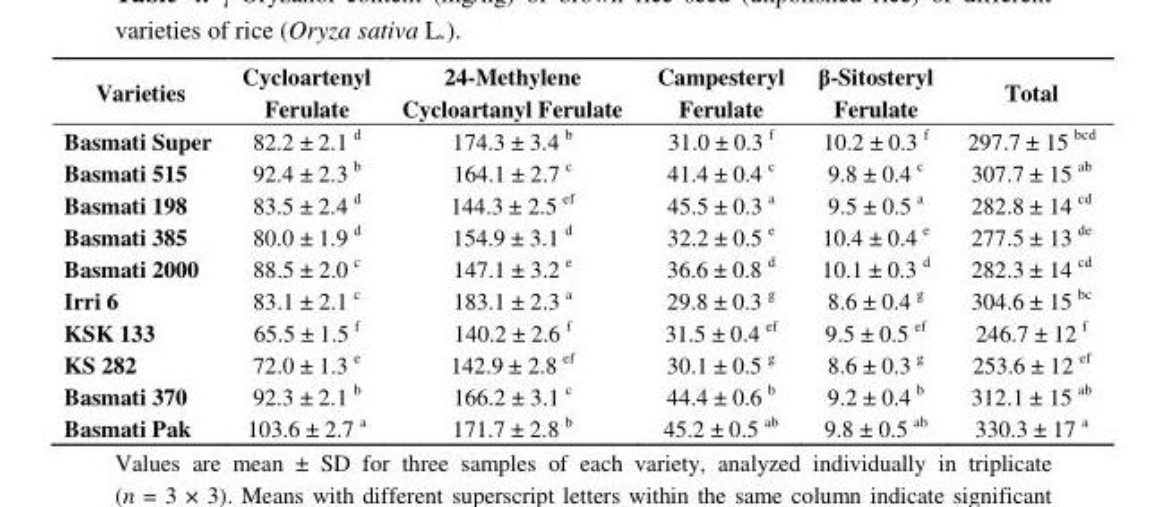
<table><thead><tr><td>Varieties</td><td>Cycloartenyl Ferulate</td><td>24-Methylene Cycloartanyl Ferulate</td><td>Campesteryl Ferulate</td><td>β-Sitosteryl Ferulate</td><td>Total</td></tr></thead><tbody><tr><td>Basmati Super</td><td>82.2 ± 2.1 <sup>d</sup></td><td>174.3 ± 3.4 <sup>b</sup></td><td>31.0 ± 0.3 <sup>f</sup></td><td>10.2 ± 0.3 <sup>f</sup></td><td>297.7 ± 15 <sup>bcd</sup></td></tr><tr><td>Basmati 515</td><td>92.4 ± 2.3 <sup>b</sup></td><td>164.1 ± 2.7 <sup>c</sup></td><td>41.4 ± 0.4 <sup>c</sup></td><td>9.8 ± 0.4 <sup>c</sup></td><td>307.7 ± 15 <sup>ab</sup></td></tr><tr><td>Basmati 198</td><td>83.5 ± 2.4 <sup>d</sup></td><td>144.3 ± 2.5 <sup>ef</sup></td><td>45.5 ± 0.3 <sup>a</sup></td><td>9.5 ± 0.5 <sup>a</sup></td><td>282.8 ± 14 <sup>cd</sup></td></tr><tr><td>Basmati 385</td><td>80.0 ± 1.9 <sup>d</sup></td><td>154.9 ± 3.1 <sup>d</sup></td><td>32.2 ± 0.5 <sup>e</sup></td><td>10.4 ± 0.4 <sup>e</sup></td><td>277.5 ± 13 <sup>de</sup></td></tr><tr><td>Basmati 2000</td><td>88.5 ± 2.0 <sup>c</sup></td><td>147.1 ± 3.2 <sup>e</sup></td><td>36.6 ± 0.8 <sup>d</sup></td><td>10.1 ± 0.3 <sup>d</sup></td><td>282.3 ± 14 <sup>cd</sup></td></tr><tr><td>Irri 6</td><td>83.1 ± 2.1 <sup>c</sup></td><td>183.1 ± 2.3 <sup>a</sup></td><td>29.8 ± 0.3 <sup>g</sup></td><td>8.6 ± 0.4 <sup>g</sup></td><td>304.6 ± 15 <sup>bc</sup></td></tr><tr><td>KSK 133</td><td>65.5 ± 1.5 <sup>f</sup></td><td>140.2 ± 2.6 <sup>f</sup></td><td>31.5 ± 0.4 <sup>ef</sup></td><td>9.5 ± 0.5 <sup>ef</sup></td><td>246.7 ± 12 <sup>f</sup></td></tr><tr><td>KS 282</td><td>72.0 ± 1.3 <sup>e</sup></td><td>142.9 ± 2.8 <sup>ef</sup></td><td>30.1 ± 0.5 <sup>g</sup></td><td>8.6 ± 0.3 <sup>g</sup></td><td>253.6 ± 12 <sup>ef</sup></td></tr><tr><td>Basmati 370</td><td>92.3 ± 2.1 <sup>b</sup></td><td>166.2 ± 3.1 <sup>c</sup></td><td>44.4 ± 0.6 <sup>b</sup></td><td>9.2 ± 0.4 <sup>b</sup></td><td>312.1 ± 15 <sup>ab</sup></td></tr><tr><td>Basmati Pak</td><td>103.6 ± 2.7 <sup>a</sup></td><td>171.7 ± 2.8 <sup>b</sup></td><td>45.2 ± 0.5 <sup>ab</sup></td><td>9.8 ± 0.5 <sup>ab</sup></td><td>330.3 ± 17 <sup>a</sup></td></tr></tbody></table>